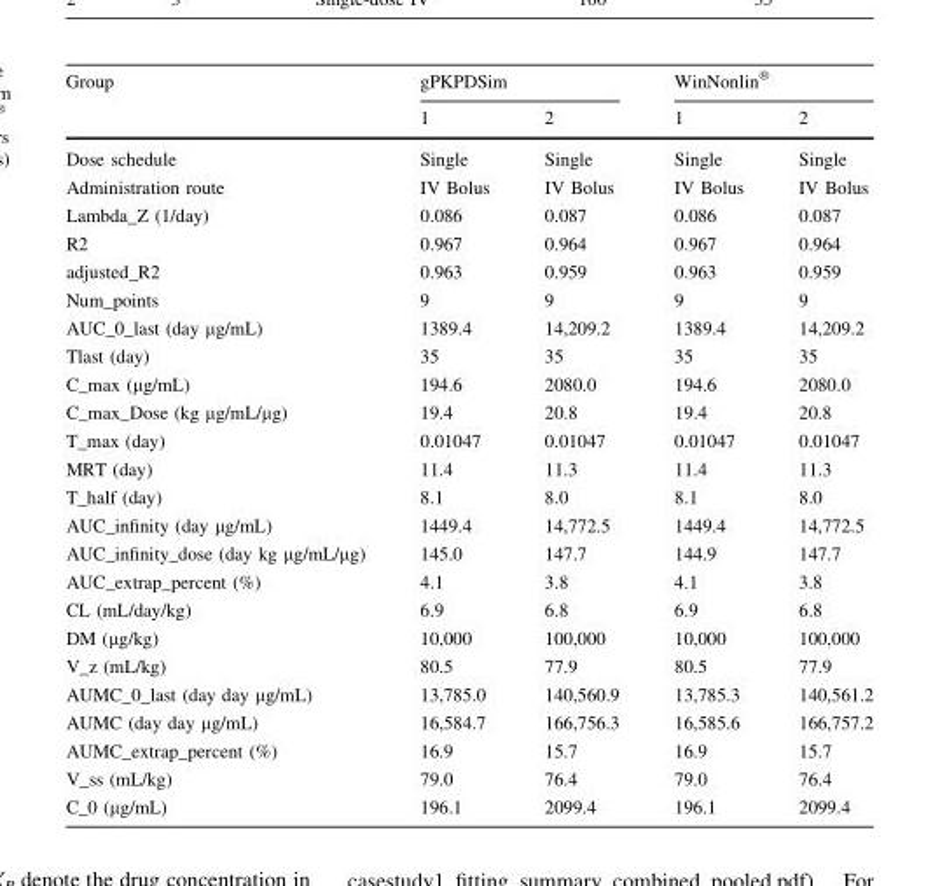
<table><thead><tr><td rowspan="2">Group</td><td colspan="2">gPKPDSim</td><td colspan="2">WinNonlin<sup>®</sup></td></tr><tr><td>1</td><td>2</td><td>1</td><td>2</td></tr></thead><tbody><tr><td>Dose schedule</td><td>Single</td><td>Single</td><td>Single</td><td>Single</td></tr><tr><td>Administration route</td><td>IV Bolus</td><td>IV Bolus</td><td>IV Bolus</td><td>IV Bolus</td></tr><tr><td>Lambda_Z (1/day)</td><td>0.086</td><td>0.087</td><td>0.086</td><td>0.087</td></tr><tr><td>R2</td><td>0.967</td><td>0.964</td><td>0.967</td><td>0.964</td></tr><tr><td>adjusted_R2</td><td>0.963</td><td>0.959</td><td>0.963</td><td>0.959</td></tr><tr><td>Num_points</td><td>9</td><td>9</td><td>9</td><td>9</td></tr><tr><td>AUC_0_last (day μg/mL)</td><td>1389.4</td><td>14,209.2</td><td>1389.4</td><td>14,209.2</td></tr><tr><td>Tlast (day)</td><td>35</td><td>35</td><td>35</td><td>35</td></tr><tr><td>C_max (μg/mL)</td><td>194.6</td><td>2080.0</td><td>194.6</td><td>2080.0</td></tr><tr><td>C_max_Dose (kg μg/mL/μg)</td><td>19.4</td><td>20.8</td><td>19.4</td><td>20.8</td></tr><tr><td>T_max (day)</td><td>0.01047</td><td>0.01047</td><td>0.01047</td><td>0.01047</td></tr><tr><td>MRT (day)</td><td>11.4</td><td>11.3</td><td>11.4</td><td>11.3</td></tr><tr><td>T_half (day)</td><td>8.1</td><td>8.0</td><td>8.1</td><td>8.0</td></tr><tr><td>AUC_infinity (day μg/mL)</td><td>1449.4</td><td>14,772.5</td><td>1449.4</td><td>14,772.5</td></tr><tr><td>AUC_infinity_dose (day kg μg/mL/μg)</td><td>145.0</td><td>147.7</td><td>144.9</td><td>147.7</td></tr><tr><td>AUC_extrap_percent (%)</td><td>4.1</td><td>3.8</td><td>4.1</td><td>3.8</td></tr><tr><td>CL (mL/day/kg)</td><td>6.9</td><td>6.8</td><td>6.9</td><td>6.8</td></tr><tr><td>DM (μg/kg)</td><td>10,000</td><td>100,000</td><td>10,000</td><td>100,000</td></tr><tr><td>V_z (mL/kg)</td><td>80.5</td><td>77.9</td><td>80.5</td><td>77.9</td></tr><tr><td>AUMC_0_last (day day μg/mL)</td><td>13,785.0</td><td>140,560.9</td><td>13,785.3</td><td>140,561.2</td></tr><tr><td>AUMC (day day μg/mL)</td><td>16,584.7</td><td>166,756.3</td><td>16,585.6</td><td>166,757.2</td></tr><tr><td>AUMC_extrap_percent (%)</td><td>16.9</td><td>15.7</td><td>16.9</td><td>15.7</td></tr><tr><td>V_ss (mL/kg)</td><td>79.0</td><td>76.4</td><td>79.0</td><td>76.4</td></tr><tr><td>C_0 (μg/mL)</td><td>196.1</td><td>2099.4</td><td>196.1</td><td>2099.4</td></tr></tbody></table>